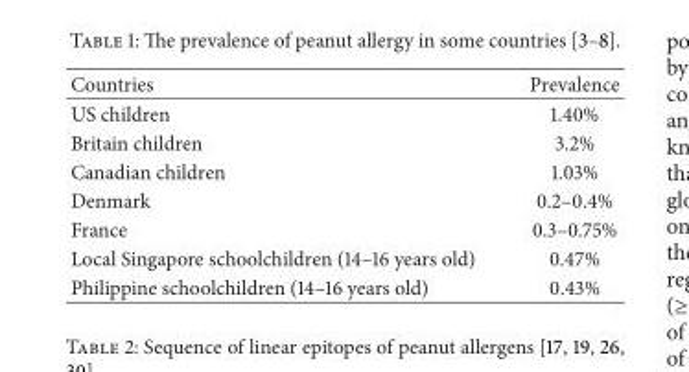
<table><thead><tr><td>Countries</td><td>Prevalence</td></tr></thead><tbody><tr><td>US children</td><td>1.40%</td></tr><tr><td>Britain children</td><td>3.2%</td></tr><tr><td>Canadian children</td><td>1.03%</td></tr><tr><td>Denmark</td><td>0.2–0.4%</td></tr><tr><td>France</td><td>0.3–0.75%</td></tr><tr><td>Local Singapore schoolchildren (14–16 years old)</td><td>0.47%</td></tr><tr><td>Philippine schoolchildren (14–16 years old)</td><td>0.43%</td></tr></tbody></table>